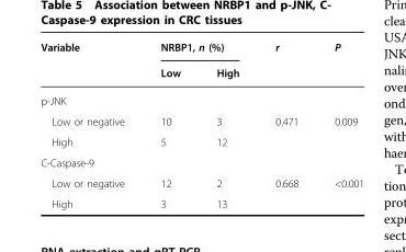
<table><thead><tr><td rowspan="2">Variable</td><td colspan="2">NRBP1, n (%)</td><td rowspan="2">r</td><td rowspan="2">P</td></tr><tr><td>Low</td><td>High</td></tr></thead><tbody><tr><td colspan="5">p-JNK</td></tr><tr><td>Low or negative</td><td>10</td><td>3</td><td>0.471</td><td>0.009</td></tr><tr><td>High</td><td>5</td><td>12</td><td></td><td></td></tr><tr><td colspan="5">C-Caspase-9</td></tr><tr><td>Low or negative</td><td>12</td><td>2</td><td>0.668</td><td>&lt;0.001</td></tr><tr><td>High</td><td>3</td><td>13</td><td></td><td></td></tr></tbody></table>